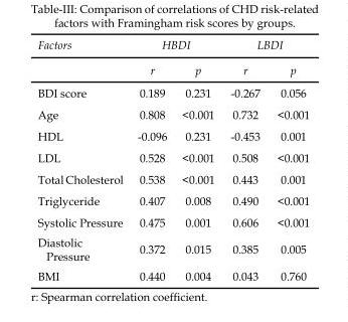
<table><thead><tr><td rowspan="2">Factors</td><td colspan="2">HBDI</td><td colspan="2">LBDI</td></tr><tr><td>r</td><td>p</td><td>r</td><td>p</td></tr></thead><tbody><tr><td>BDI score</td><td>0.189</td><td>0.231</td><td>-0.267</td><td>0.056</td></tr><tr><td>Age</td><td>0.808</td><td>&lt;0.001</td><td>0.732</td><td>&lt;0.001</td></tr><tr><td>HDL</td><td>-0.096</td><td>0.231</td><td>-0.453</td><td>0.001</td></tr><tr><td>LDL</td><td>0.528</td><td>&lt;0.001</td><td>0.508</td><td>&lt;0.001</td></tr><tr><td>Total Cholesterol</td><td>0.538</td><td>&lt;0.001</td><td>0.443</td><td>0.001</td></tr><tr><td>Triglyceride</td><td>0.407</td><td>0.008</td><td>0.490</td><td>&lt;0.001</td></tr><tr><td>Systolic Pressure</td><td>0.475</td><td>0.001</td><td>0.606</td><td>&lt;0.001</td></tr><tr><td>Diastolic Pressure</td><td>0.372</td><td>0.015</td><td>0.385</td><td>0.005</td></tr><tr><td>BMI</td><td>0.440</td><td>0.004</td><td>0.043</td><td>0.760</td></tr></tbody></table>